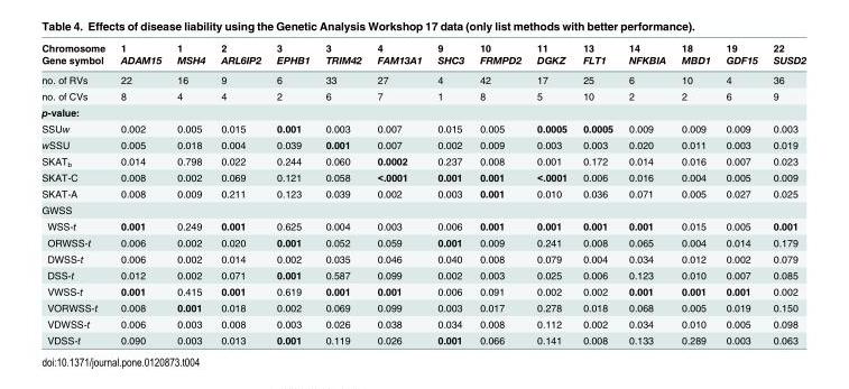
<table><thead><tr><td rowspan="2">Chromosome Gene symbol</td><td rowspan="2">1 ADAM15</td><td rowspan="2">1 MSH4</td><td rowspan="2">2 ARL6IP2</td><td rowspan="2">3 EPHB1</td><td rowspan="2">3 TRIM42</td><td rowspan="2">4 FAM13A1</td><td rowspan="2">9 SHC3</td><td rowspan="2">10 FRMPD2</td><td rowspan="2">11 DGKZ</td><td rowspan="2">13 FLT1</td><td rowspan="2">14 NFKBIA</td><td rowspan="2">18 MBD1</td><td rowspan="2">19 GDF15</td><td rowspan="2">22 SUSD2</td></tr><tr></tr></thead><tbody><tr><td>no. of RVs</td><td>22</td><td>16</td><td>9</td><td>6</td><td>33</td><td>27</td><td>4</td><td>42</td><td>17</td><td>25</td><td>6</td><td>10</td><td>4</td><td>36</td></tr><tr><td>no. of CVs</td><td>8</td><td>4</td><td>4</td><td>2</td><td>6</td><td>7</td><td>1</td><td>8</td><td>5</td><td>10</td><td>2</td><td>2</td><td>6</td><td>9</td></tr><tr><td colspan="15">p-value:</td></tr><tr><td>SSUw</td><td>0.002</td><td>0.005</td><td>0.015</td><td>0.001</td><td>0.003</td><td>0.007</td><td>0.015</td><td>0.005</td><td>0.0005</td><td>0.0005</td><td>0.009</td><td>0.009</td><td>0.009</td><td>0.003</td></tr><tr><td>wSSU</td><td>0.005</td><td>0.018</td><td>0.004</td><td>0.039</td><td>0.001</td><td>0.007</td><td>0.002</td><td>0.009</td><td>0.003</td><td>0.003</td><td>0.020</td><td>0.011</td><td>0.003</td><td>0.019</td></tr><tr><td>SKAT<sub>b</sub></td><td>0.014</td><td>0.798</td><td>0.022</td><td>0.244</td><td>0.060</td><td>0.0002</td><td>0.237</td><td>0.008</td><td>0.001</td><td>0.172</td><td>0.014</td><td>0.016</td><td>0.007</td><td>0.023</td></tr><tr><td>SKAT-C</td><td>0.008</td><td>0.002</td><td>0.069</td><td>0.121</td><td>0.058</td><td>&lt;.0001</td><td>0.001</td><td>0.001</td><td>&lt;.0001</td><td>0.006</td><td>0.016</td><td>0.004</td><td>0.005</td><td>0.009</td></tr><tr><td>SKAT-A</td><td>0.008</td><td>0.009</td><td>0.211</td><td>0.123</td><td>0.039</td><td>0.002</td><td>0.003</td><td>0.001</td><td>0.010</td><td>0.036</td><td>0.071</td><td>0.005</td><td>0.027</td><td>0.025</td></tr><tr><td colspan="15">GWSS</td></tr><tr><td>WSS-t</td><td>0.001</td><td>0.249</td><td>0.001</td><td>0.625</td><td>0.004</td><td>0.003</td><td>0.006</td><td>0.001</td><td>0.001</td><td>0.001</td><td>0.001</td><td>0.015</td><td>0.005</td><td>0.001</td></tr><tr><td>ORWSS-t</td><td>0.006</td><td>0.002</td><td>0.020</td><td>0.001</td><td>0.052</td><td>0.059</td><td>0.001</td><td>0.009</td><td>0.241</td><td>0.008</td><td>0.065</td><td>0.004</td><td>0.014</td><td>0.179</td></tr><tr><td>DWSS-t</td><td>0.006</td><td>0.002</td><td>0.014</td><td>0.002</td><td>0.035</td><td>0.046</td><td>0.040</td><td>0.008</td><td>0.079</td><td>0.004</td><td>0.034</td><td>0.012</td><td>0.002</td><td>0.079</td></tr><tr><td>DSS-t</td><td>0.012</td><td>0.002</td><td>0.071</td><td>0.001</td><td>0.587</td><td>0.099</td><td>0.002</td><td>0.003</td><td>0.025</td><td>0.006</td><td>0.123</td><td>0.010</td><td>0.007</td><td>0.085</td></tr><tr><td>VWSS-t</td><td>0.001</td><td>0.415</td><td>0.001</td><td>0.619</td><td>0.001</td><td>0.001</td><td>0.006</td><td>0.091</td><td>0.002</td><td>0.002</td><td>0.001</td><td>0.001</td><td>0.001</td><td>0.002</td></tr><tr><td>VORWSS-t</td><td>0.008</td><td>0.001</td><td>0.018</td><td>0.002</td><td>0.069</td><td>0.099</td><td>0.003</td><td>0.017</td><td>0.278</td><td>0.018</td><td>0.068</td><td>0.005</td><td>0.019</td><td>0.150</td></tr><tr><td>VDWSS-t</td><td>0.006</td><td>0.003</td><td>0.008</td><td>0.003</td><td>0.026</td><td>0.038</td><td>0.034</td><td>0.008</td><td>0.112</td><td>0.002</td><td>0.034</td><td>0.010</td><td>0.005</td><td>0.098</td></tr><tr><td>VDSS-t</td><td>0.090</td><td>0.003</td><td>0.013</td><td>0.001</td><td>0.119</td><td>0.026</td><td>0.001</td><td>0.066</td><td>0.141</td><td>0.008</td><td>0.133</td><td>0.289</td><td>0.003</td><td>0.063</td></tr></tbody></table>